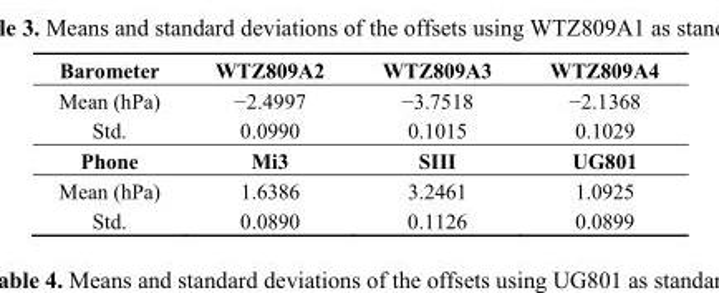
<table><tbody><tr><td>Barometer</td><td>WTZ809A2</td><td>WTZ809A3</td><td>WTZ809A4</td></tr><tr><td>Mean (hPa)</td><td>−2.4997</td><td>−3.7518</td><td>−2.1368</td></tr><tr><td>Std.</td><td>0.0990</td><td>0.1015</td><td>0.1029</td></tr><tr><td>Phone</td><td>Mi3</td><td>SIII</td><td>UG801</td></tr><tr><td>Mean (hPa)</td><td>1.6386</td><td>3.2461</td><td>1.0925</td></tr><tr><td>Std.</td><td>0.0890</td><td>0.1126</td><td>0.0899</td></tr></tbody></table>